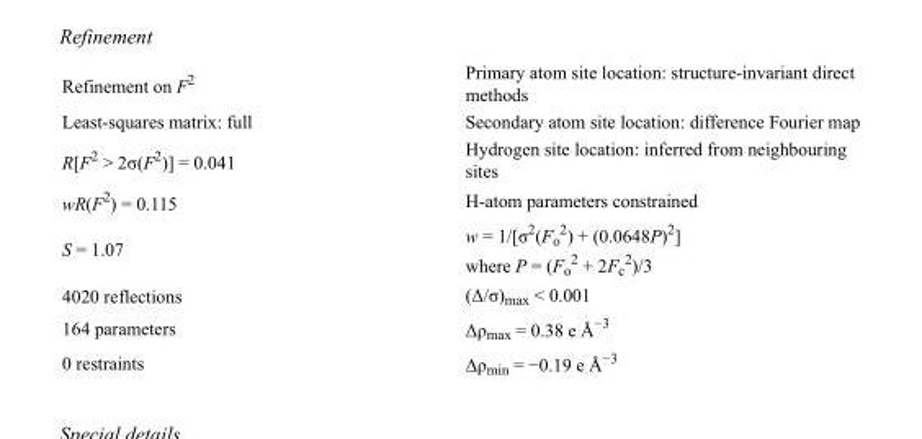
<table><tbody><tr><td>Refinement on F<sup>2</sup></td><td>Primary atom site location: structure-invariant direct methods</td></tr><tr><td>Least-squares matrix: full</td><td>Secondary atom site location: difference Fourier map</td></tr><tr><td>R[F<sup>2</sup> &gt; 2σ(F<sup>2</sup>)] = 0.041</td><td>Hydrogen site location: inferred from neighbouring sites</td></tr><tr><td>wR(F<sup>2</sup>) = 0.115</td><td>H-atom parameters constrained</td></tr><tr><td>S = 1.07</td><td>w = 1/[σ<sup>2</sup>(F<sub>o</sub> <sup>2</sup>) + (0.0648P)<sup>2</sup>] where P = (F<sub>o</sub> <sup>2</sup> + 2F<sub>c</sub> <sup>2</sup>)/3</td></tr><tr><td>4020 reflections</td><td>(Δ/σ)<sub>max</sub> &lt; 0.001</td></tr><tr><td>164 parameters</td><td>Δρ<sub>max</sub> = 0.38 e Å<sup>−3</sup></td></tr><tr><td>0 restraints</td><td>Δρmin = −0.19 e Å−3</td></tr></tbody></table>